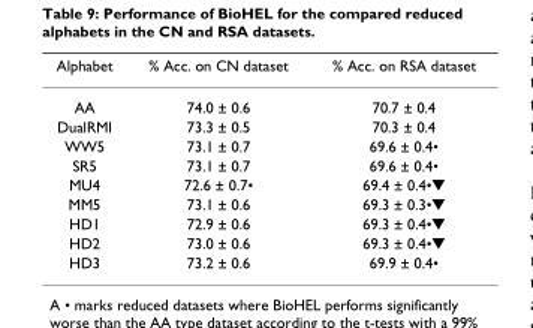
<table><thead><tr><td>Alphabet</td><td>% Acc. on CN dataset</td><td>% Acc. on RSA dataset</td></tr></thead><tbody><tr><td>AA</td><td>74.0 ± 0.6</td><td>70.7 ± 0.4</td></tr><tr><td>DualRMI</td><td>73.3 ± 0.5</td><td>70.3 ± 0.4</td></tr><tr><td>WW5</td><td>73.1 ± 0.7</td><td>69.6 ± 0.4•</td></tr><tr><td>SR5</td><td>73.1 ± 0.7</td><td>69.6 ± 0.4•</td></tr><tr><td>MU4</td><td>72.6 ± 0.7•</td><td>69.4 ± 0.4•▼</td></tr><tr><td>MM5</td><td>73.1 ± 0.6</td><td>69.3 ± 0.3•▼</td></tr><tr><td>HD1</td><td>72.9 ± 0.6</td><td>69.3 ± 0.4•▼</td></tr><tr><td>HD2</td><td>73.0 ± 0.6</td><td>69.3 ± 0.4•▼</td></tr><tr><td>HD3</td><td>73.2 ± 0.6</td><td>69.9 ± 0.4•</td></tr></tbody></table>